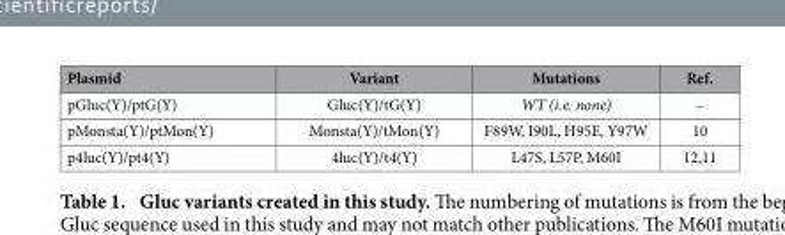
<table><thead><tr><td>Plasmid</td><td>Variant</td><td>Mutations</td><td>Ref.</td></tr></thead><tbody><tr><td>pGluc(Y)/ptG(Y)</td><td>Gluc(Y)/tG(Y)</td><td>WT (i.e. none)</td><td>–</td></tr><tr><td>pMonsta(Y)/ptMon(Y)</td><td>Monsta(Y)/tMon(Y)</td><td>F89W, I90L, H95E, Y97W</td><td>10</td></tr><tr><td>p4luc(Y)/pt4(Y)</td><td>4luc(Y)/t4(Y)</td><td>L47S, L57P, M60I</td><td>12,11</td></tr></tbody></table>